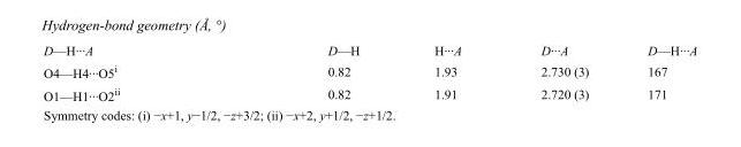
<table><tbody><tr><td>D—H···A</td><td>D—H</td><td>H···A</td><td>D···A</td><td>D—H···A</td></tr><tr><td>O4—H4···O5<sup>i</sup></td><td>0.82</td><td>1.93</td><td>2.730 (3)</td><td>167</td></tr><tr><td>O1—H1···O2<sup>ii</sup></td><td>0.82</td><td>1.91</td><td>2.720 (3)</td><td>171</td></tr></tbody></table>